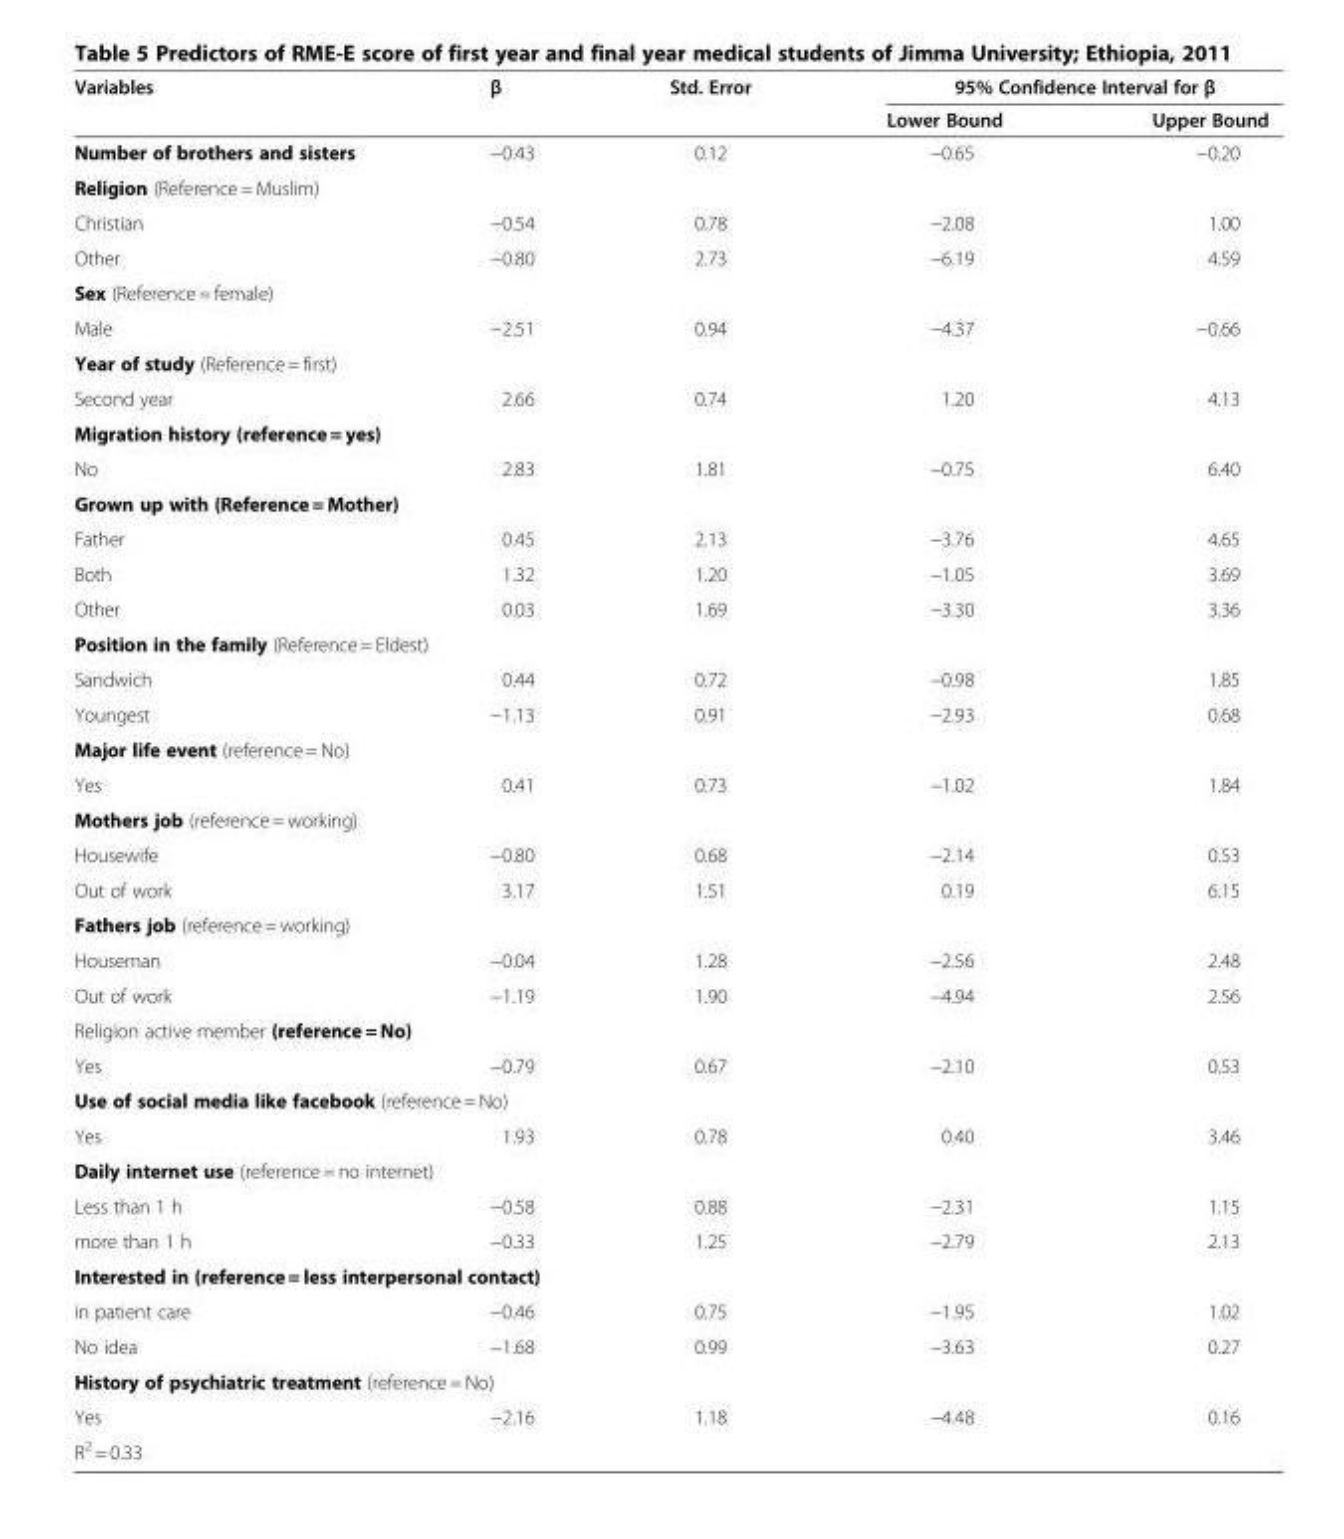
<table><thead><tr><td rowspan="2">Variables</td><td rowspan="2">β</td><td rowspan="2">Std. Error</td><td colspan="2">95% Confidence Interval for β</td></tr><tr><td>Lower Bound</td><td>Upper Bound</td></tr></thead><tbody><tr><td>Number of brothers and sisters</td><td>−0.43</td><td>0.12</td><td>−0.65</td><td>−0.20</td></tr><tr><td colspan="5">Religion (Reference = Muslim)</td></tr><tr><td>Christian</td><td>−0.54</td><td>0.78</td><td>−2.08</td><td>1.00</td></tr><tr><td>Other</td><td>−0.80</td><td>2.73</td><td>−6.19</td><td>4.59</td></tr><tr><td colspan="5">Sex (Reference = female)</td></tr><tr><td>Male</td><td>−2.51</td><td>0.94</td><td>−4.37</td><td>−0.66</td></tr><tr><td colspan="5">Year of study (Reference = first)</td></tr><tr><td>Second year</td><td>2.66</td><td>0.74</td><td>1.20</td><td>4.13</td></tr><tr><td colspan="5">Migration history (reference = yes)</td></tr><tr><td>No</td><td>2.83</td><td>1.81</td><td>−0.75</td><td>6.40</td></tr><tr><td colspan="5">Grown up with (Reference = Mother)</td></tr><tr><td>Father</td><td>0.45</td><td>2.13</td><td>−3.76</td><td>4.65</td></tr><tr><td>Both</td><td>1.32</td><td>1.20</td><td>−1.05</td><td>3.69</td></tr><tr><td>Other</td><td>0.03</td><td>1.69</td><td>−3.30</td><td>3.36</td></tr><tr><td colspan="5">Position in the family (Reference = Eldest)</td></tr><tr><td>Sandwich</td><td>0.44</td><td>0.72</td><td>−0.98</td><td>1.85</td></tr><tr><td>Youngest</td><td>−1.13</td><td>0.91</td><td>−2.93</td><td>0.68</td></tr><tr><td colspan="5">Major life event (reference = No)</td></tr><tr><td>Yes</td><td>0.41</td><td>0.73</td><td>−1.02</td><td>1.84</td></tr><tr><td colspan="5">Mothers job (reference = working)</td></tr><tr><td>Housewife</td><td>−0.80</td><td>0.68</td><td>−2.14</td><td>0.53</td></tr><tr><td>Out of work</td><td>3.17</td><td>1.51</td><td>0.19</td><td>6.15</td></tr><tr><td colspan="5">Fathers job (reference = working)</td></tr><tr><td>Houseman</td><td>−0.04</td><td>1.28</td><td>−2.56</td><td>2.48</td></tr><tr><td>Out of work</td><td>−1.19</td><td>1.90</td><td>−4.94</td><td>2.56</td></tr><tr><td colspan="5">Religion active member (reference = No)</td></tr><tr><td>Yes</td><td>−0.79</td><td>0.67</td><td>−2.10</td><td>0.53</td></tr><tr><td colspan="5">Use of social media like facebook (reference = No)</td></tr><tr><td>Yes</td><td>1.93</td><td>0.78</td><td>0.40</td><td>3.46</td></tr><tr><td colspan="5">Daily internet use (reference = no internet)</td></tr><tr><td>Less than 1 h</td><td>−0.58</td><td>0.88</td><td>−2.31</td><td>1.15</td></tr><tr><td>more than 1 h</td><td>−0.33</td><td>1.25</td><td>−2.79</td><td>2.13</td></tr><tr><td colspan="5">Interested in (reference = less interpersonal contact)</td></tr><tr><td>in patient care</td><td>−0.46</td><td>0.75</td><td>−1.95</td><td>1.02</td></tr><tr><td>No idea</td><td>−1.68</td><td>0.99</td><td>−3.63</td><td>0.27</td></tr><tr><td colspan="5">History of psychiatric treatment (reference = No)</td></tr><tr><td>Yes</td><td>−2.16</td><td>1.18</td><td>−4.48</td><td>0.16</td></tr><tr><td colspan="5">R<sup>2</sup> = 0.33</td></tr></tbody></table>